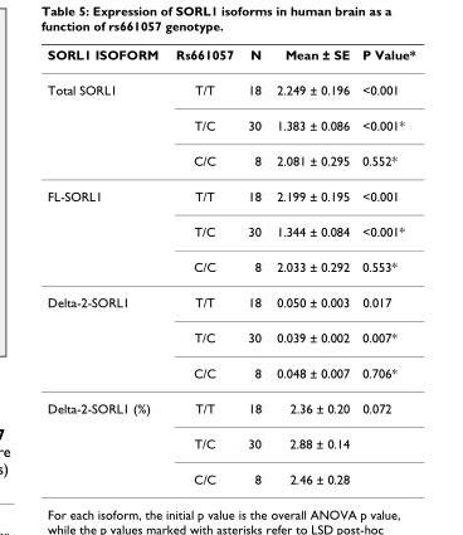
<table><thead><tr><td>SORL1 ISOFORM</td><td>Rs661057</td><td>N</td><td>Mean ± SE</td><td>P Value*</td></tr></thead><tbody><tr><td rowspan="3">Total SORL1</td><td>T/T</td><td>18</td><td>2.249 ± 0.196</td><td>&lt;0.001</td></tr><tr><td>T/C</td><td>30</td><td>1.383 ± 0.086</td><td>&lt;0.001*</td></tr><tr><td>C/C</td><td>8</td><td>2.081 ± 0.295</td><td>0.552*</td></tr><tr><td rowspan="3">FL-SORL1</td><td>T/T</td><td>18</td><td>2.199 ± 0.195</td><td>&lt;0.001</td></tr><tr><td>T/C</td><td>30</td><td>1.344 ± 0.084</td><td>&lt;0.001*</td></tr><tr><td>C/C</td><td>8</td><td>2.033 ± 0.292</td><td>0.553*</td></tr><tr><td rowspan="3">Delta-2-SORL1</td><td>T/T</td><td>18</td><td>0.050 ± 0.003</td><td>0.017</td></tr><tr><td>T/C</td><td>30</td><td>0.039 ± 0.002</td><td>0.007*</td></tr><tr><td>C/C</td><td>8</td><td>0.048 ± 0.007</td><td>0.706*</td></tr><tr><td rowspan="3">Delta-2-SORL1 (%)</td><td>T/T</td><td>18</td><td>2.36 ± 0.20</td><td>0.072</td></tr><tr><td>T/C</td><td>30</td><td>2.88 ± 0.14</td><td></td></tr><tr><td>C/C</td><td>8</td><td>2.46 ± 0.28</td><td></td></tr></tbody></table>